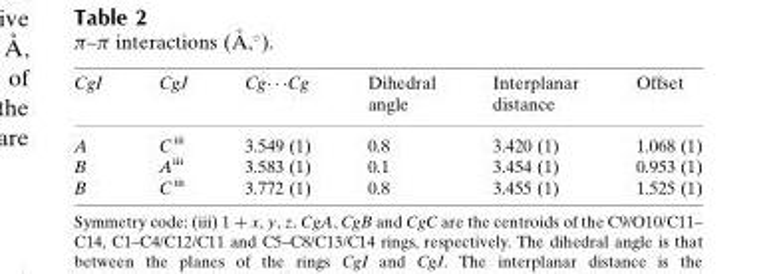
<table><tbody><tr><td>CgI</td><td>CgJ</td><td>Cg· · ·Cg</td><td>Dihedral angle</td><td>Interplanar distance</td><td>Offset</td></tr><tr><td>A</td><td>C <sup>iii</sup></td><td>3.549 (1)</td><td>0.8</td><td>3.420 (1)</td><td>1.068 (1)</td></tr><tr><td>B</td><td>A<sup>iii</sup></td><td>3.583 (1)</td><td>0.1</td><td>3.454 (1)</td><td>0.953 (1)</td></tr><tr><td>B</td><td>C <sup>iii</sup></td><td>3.772 (1)</td><td>0.8</td><td>3.455 (1)</td><td>1.525 (1)</td></tr></tbody></table>